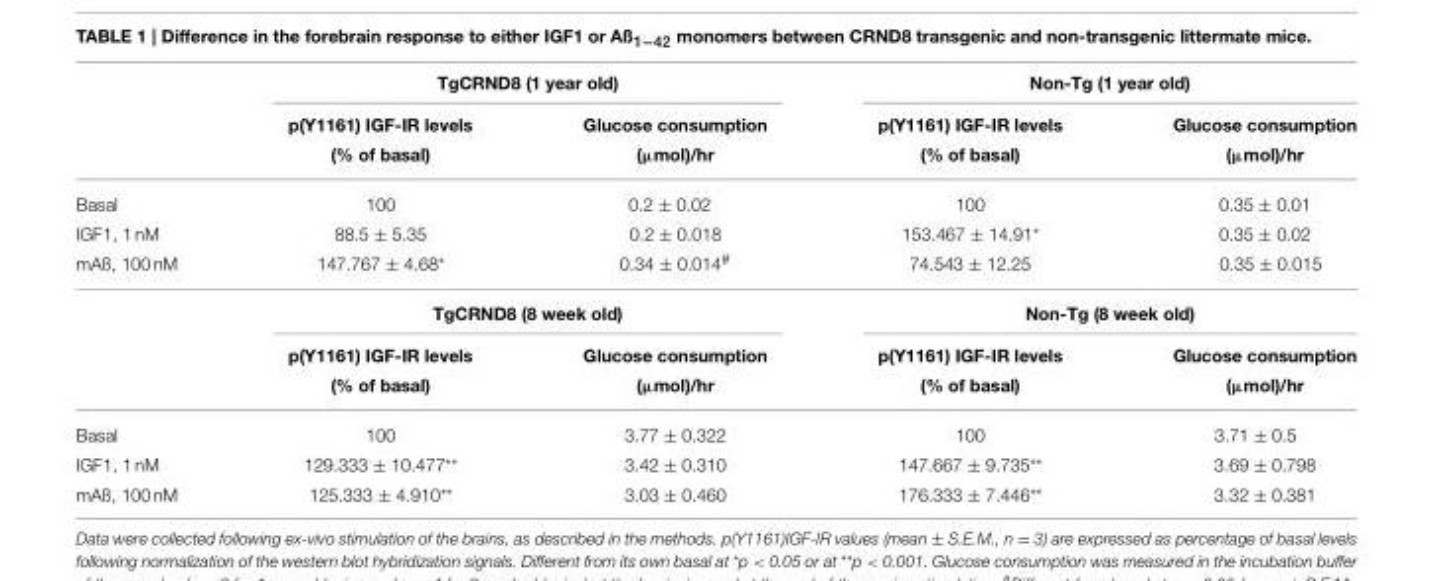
<table><thead><tr><td rowspan="2"></td><td colspan="2">TgCRND8 (1 year old)</td><td colspan="2">Non-Tg (1 year old)</td></tr><tr><td>p(Y1161) IGF-IR levels (% of basal)</td><td>Glucose consumption (µmol)/hr</td><td>p(Y1161) IGF-IR levels (% of basal)</td><td>Glucose consumption (µmol)/hr</td></tr></thead><tbody><tr><td>Basal</td><td>100</td><td>0.2 ± 0.02</td><td>100</td><td>0.35 ± 0.01</td></tr><tr><td>IGF1, 1 nM</td><td>88.5 ± 5.35</td><td>0.2 ± 0.018</td><td>153.467 ± 14.91*</td><td>0.35 ± 0.02</td></tr><tr><td rowspan="3">mAß, 100 nM</td><td>147.767 ± 4.68*</td><td>0.34 ± 0.014<sup>#</sup></td><td>74.543 ± 12.25</td><td>0.35 ± 0.015</td></tr><tr><td colspan="2">TgCRND8 (8 week old)</td><td colspan="2">Non-Tg (8 week old)</td></tr><tr><td>p(Y1161) IGF-IR levels (% of basal)</td><td>Glucose consumption (µmol)/hr</td><td>p(Y1161) IGF-IR levels (% of basal)</td><td>Glucose consumption (µmol)/hr</td></tr><tr><td>Basal</td><td>100</td><td>3.77 ± 0.322</td><td>100</td><td>3.71 ± 0.5</td></tr><tr><td>IGF1, 1 nM</td><td>129.333 ± 10.477**</td><td>3.42 ± 0.310</td><td>147.667 ± 9.735**</td><td>3.69 ± 0.798</td></tr><tr><td>mAß, 100 nM</td><td>125.333 ± 4.910**</td><td>3.03 ± 0.460</td><td>176.333 ± 7.446**</td><td>3.32 ± 0.381</td></tr></tbody></table>